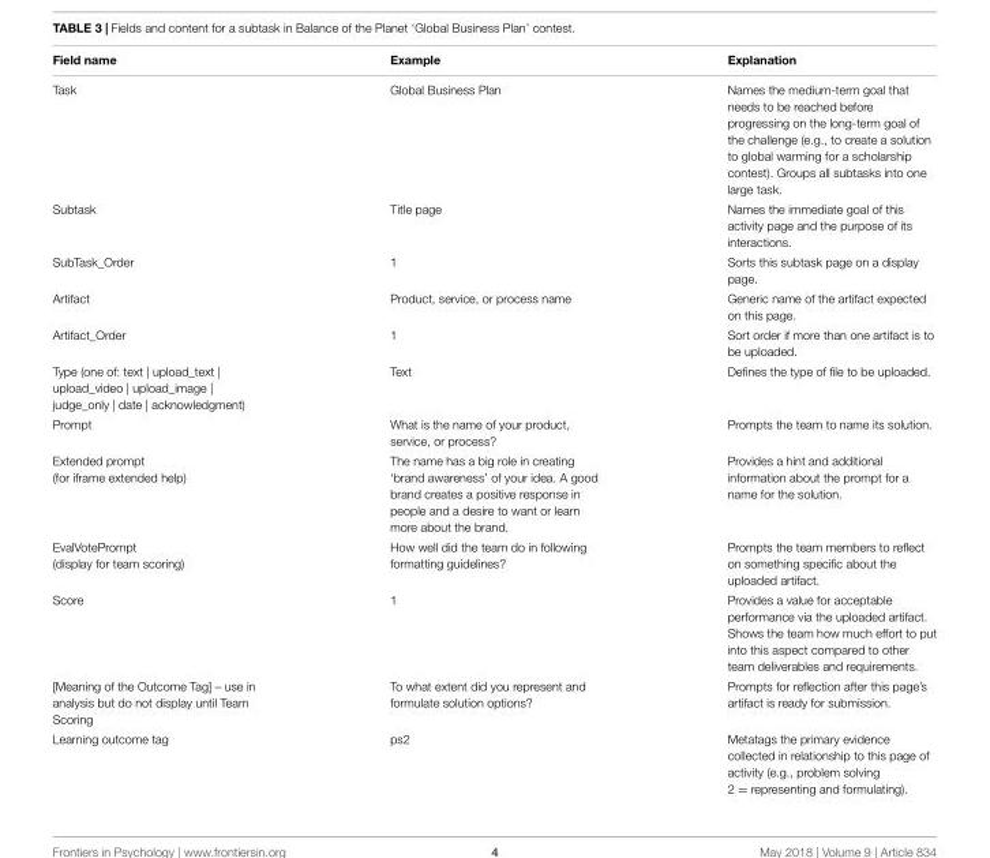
<table><thead><tr><td>Field name</td><td>Example</td><td>Explanation</td></tr></thead><tbody><tr><td>Task</td><td>Global Business Plan</td><td>Names the medium-term goal that needs to be reached before progressing on the long-term goal of the challenge (e.g., to create a solution to global warming for a scholarship contest). Groups all subtasks into one large task.</td></tr><tr><td>Subtask</td><td>Title page</td><td>Names the immediate goal of this activity page and the purpose of its interactions.</td></tr><tr><td>SubTask_Order</td><td>1</td><td>Sorts this subtask page on a display page.</td></tr><tr><td>Artifact</td><td>Product, service, or process name</td><td>Generic name of the artifact expected on this page.</td></tr><tr><td>Artifact_Order</td><td>1</td><td>Sort order if more than one artifact is to be uploaded.</td></tr><tr><td>Type (one of: text | upload_text | upload_video | upload_image | judge_only | date | acknowledgment)</td><td>Text</td><td>Defines the type of file to be uploaded.</td></tr><tr><td>Prompt</td><td>What is the name of your product, service, or process?</td><td>Prompts the team to name its solution.</td></tr><tr><td>Extended prompt (for iframe extended help)</td><td>The name has a big role in creating ‘brand awareness’ of your idea. A good brand creates a positive response in people and a desire to want or learn more about the brand.</td><td>Provides a hint and additional information about the prompt for a name for the solution.</td></tr><tr><td>EvalVotePrompt (display for team scoring)</td><td>How well did the team do in following formatting guidelines?</td><td>Prompts the team members to reflect on something specific about the uploaded artifact.</td></tr><tr><td>Score</td><td>1</td><td>Provides a value for acceptable performance via the uploaded artifact. Shows the team how much effort to put into this aspect compared to other team deliverables and requirements.</td></tr><tr><td>[Meaning of the Outcome Tag] – use in analysis but do not display until Team Scoring</td><td>To what extent did you represent and formulate solution options?</td><td>Prompts for reflection after this page’s artifact is ready for submission.</td></tr><tr><td>Learning outcome tag</td><td>ps2</td><td>Metatags the primary evidence collected in relationship to this page of activity (e.g., problem solving 2 = representing and formulating).</td></tr></tbody></table>